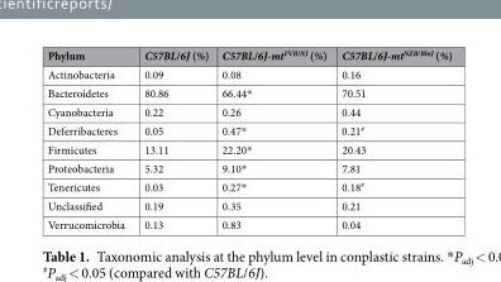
<table><thead><tr><td>Phylum</td><td>C57BL/6J (%)</td><td>C57BL/6J-mt<sup>FVB/NJ</sup> (%)</td><td>C57BL/6J-mt<sup>NZB/BlnJ</sup> (%)</td></tr></thead><tbody><tr><td>Actinobacteria</td><td>0.09</td><td>0.08</td><td>0.16</td></tr><tr><td>Bacteroidetes</td><td>80.86</td><td>66.44*</td><td>70.51</td></tr><tr><td>Cyanobacteria</td><td>0.22</td><td>0.26</td><td>0.44</td></tr><tr><td>Deferribacteres</td><td>0.05</td><td>0.47*</td><td>0.21<sup>#</sup></td></tr><tr><td>Firmicutes</td><td>13.11</td><td>22.20*</td><td>20.43</td></tr><tr><td>Proteobacteria</td><td>5.32</td><td>9.10*</td><td>7.81</td></tr><tr><td>Tenericutes</td><td>0.03</td><td>0.27*</td><td>0.18<sup>#</sup></td></tr><tr><td>Unclassified</td><td>0.19</td><td>0.35</td><td>0.21</td></tr><tr><td>Verrucomicrobia</td><td>0.13</td><td>0.83</td><td>0.04</td></tr></tbody></table>